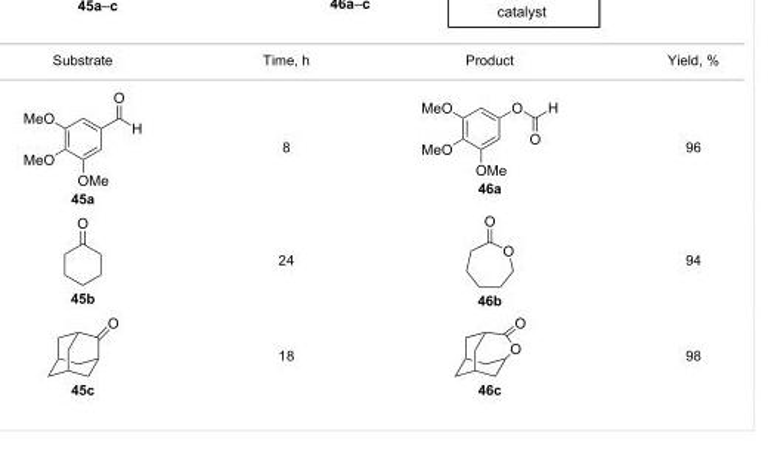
<table><tbody><tr><td>Substrate</td><td>Time, h</td><td>Product</td><td>Yield, %</td></tr><tr><td>45a</td><td>8</td><td>46a</td><td>96</td></tr><tr><td>45b</td><td>24</td><td>46b</td><td>94</td></tr><tr><td>45c</td><td>18</td><td>46c</td><td>98</td></tr></tbody></table>